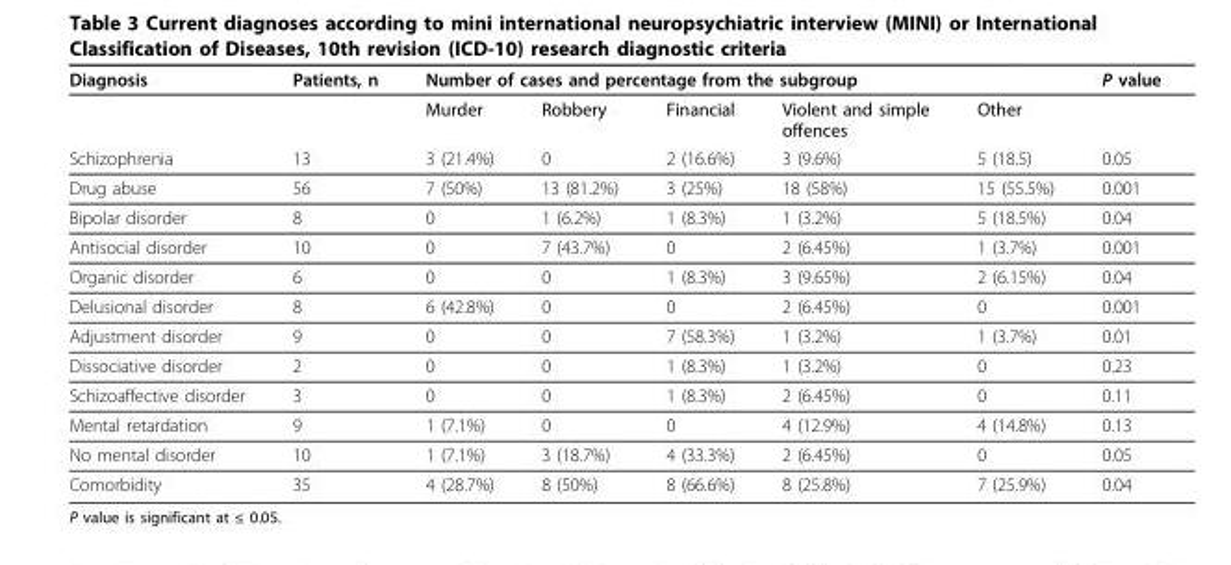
<table><thead><tr><td rowspan="2">Diagnosis</td><td rowspan="2">Patients, n</td><td colspan="5">Number of cases and percentage from the subgroup</td><td rowspan="2">P value</td></tr><tr><td>Murder</td><td>Robbery</td><td>Financial</td><td>Violent and simple offences</td><td>Other</td></tr></thead><tbody><tr><td>Schizophrenia</td><td>13</td><td>3 (21.4%)</td><td>0</td><td>2 (16.6%)</td><td>3 (9.6%)</td><td>5 (18.5)</td><td>0.05</td></tr><tr><td>Drug abuse</td><td>56</td><td>7 (50%)</td><td>13 (81.2%)</td><td>3 (25%)</td><td>18 (58%)</td><td>15 (55.5%)</td><td>0.001</td></tr><tr><td>Bipolar disorder</td><td>8</td><td>0</td><td>1 (6.2%)</td><td>1 (8.3%)</td><td>1 (3.2%)</td><td>5 (18.5%)</td><td>0.04</td></tr><tr><td>Antisocial disorder</td><td>10</td><td>0</td><td>7 (43.7%)</td><td>0</td><td>2 (6.45%)</td><td>1 (3.7%)</td><td>0.001</td></tr><tr><td>Organic disorder</td><td>6</td><td>0</td><td>0</td><td>1 (8.3%)</td><td>3 (9.65%)</td><td>2 (6.15%)</td><td>0.04</td></tr><tr><td>Delusional disorder</td><td>8</td><td>6 (42.8%)</td><td>0</td><td>0</td><td>2 (6.45%)</td><td>0</td><td>0.001</td></tr><tr><td>Adjustment disorder</td><td>9</td><td>0</td><td>0</td><td>7 (58.3%)</td><td>1 (3.2%)</td><td>1 (3.7%)</td><td>0.01</td></tr><tr><td>Dissociative disorder</td><td>2</td><td>0</td><td>0</td><td>1 (8.3%)</td><td>1 (3.2%)</td><td>0</td><td>0.23</td></tr><tr><td>Schizoaffective disorder</td><td>3</td><td>0</td><td>0</td><td>1 (8.3%)</td><td>2 (6.45%)</td><td>0</td><td>0.11</td></tr><tr><td>Mental retardation</td><td>9</td><td>1 (7.1%)</td><td>0</td><td>0</td><td>4 (12.9%)</td><td>4 (14.8%)</td><td>0.13</td></tr><tr><td>No mental disorder</td><td>10</td><td>1 (7.1%)</td><td>3 (18.7%)</td><td>4 (33.3%)</td><td>2 (6.45%)</td><td>0</td><td>0.05</td></tr><tr><td>Comorbidity</td><td>35</td><td>4 (28.7%)</td><td>8 (50%)</td><td>8 (66.6%)</td><td>8 (25.8%)</td><td>7 (25.9%)</td><td>0.04</td></tr></tbody></table>